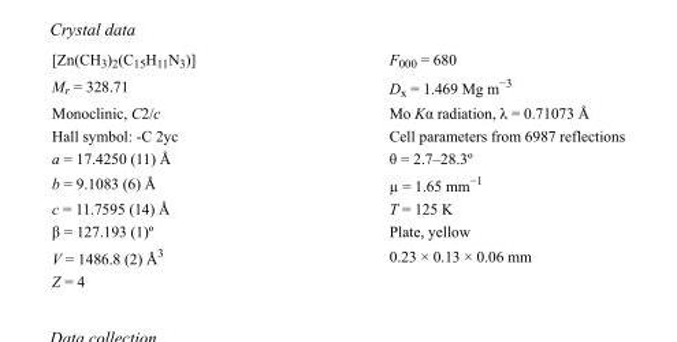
<table><tbody><tr><td>[Zn(CH<sub>3</sub>)<sub>2</sub>(C<sub>15</sub>H<sub>11</sub>N<sub>3</sub>)]</td><td>F000 = 680</td></tr><tr><td>M<sub>r</sub> = 328.71</td><td>D<sub>x</sub> = 1.469 Mg m<sup>−3</sup></td></tr><tr><td>Monoclinic, C2/c</td><td>Mo Kα radiation, λ = 0.71073 Å</td></tr><tr><td>Hall symbol: -C 2yc</td><td>Cell parameters from 6987 reflections</td></tr><tr><td>a = 17.4250 (11) Å</td><td>θ = 2.7–28.3º</td></tr><tr><td>b = 9.1083 (6) Å</td><td>µ = 1.65 mm<sup>−1</sup></td></tr><tr><td>c = 11.7595 (14) Å</td><td>T = 125 K</td></tr><tr><td>β = 127.193 (1)º</td><td>Plate, yellow</td></tr><tr><td>V = 1486.8 (2) Å<sup>3</sup></td><td>0.23 × 0.13 × 0.06 mm</td></tr><tr><td>Z = 4</td><td></td></tr></tbody></table>